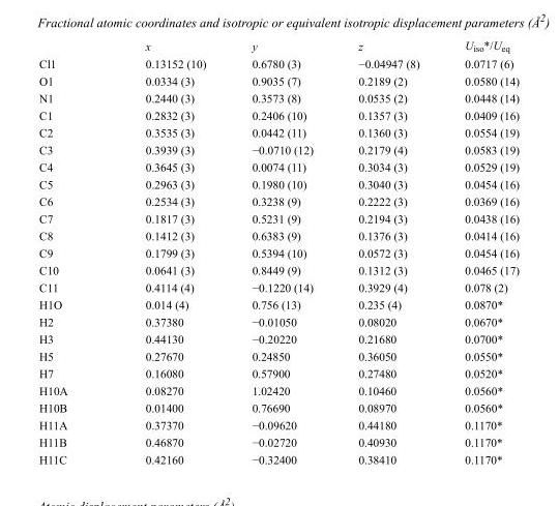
<table><thead><tr><td></td><td>x</td><td>y</td><td>z</td><td>U<sub>iso</sub>*/U<sub>eq</sub></td></tr></thead><tbody><tr><td>Cl1</td><td>0.13152 (10)</td><td>0.6780 (3)</td><td>−0.04947 (8)</td><td>0.0717 (6)</td></tr><tr><td>O1</td><td>0.0334 (3)</td><td>0.9035 (7)</td><td>0.2189 (2)</td><td>0.0580 (14)</td></tr><tr><td>N1</td><td>0.2440 (3)</td><td>0.3573 (8)</td><td>0.0535 (2)</td><td>0.0448 (14)</td></tr><tr><td>C1</td><td>0.2832 (3)</td><td>0.2406 (10)</td><td>0.1357 (3)</td><td>0.0409 (16)</td></tr><tr><td>C2</td><td>0.3535 (3)</td><td>0.0442 (11)</td><td>0.1360 (3)</td><td>0.0554 (19)</td></tr><tr><td>C3</td><td>0.3939 (3)</td><td>−0.0710 (12)</td><td>0.2179 (4)</td><td>0.0583 (19)</td></tr><tr><td>C4</td><td>0.3645 (3)</td><td>0.0074 (11)</td><td>0.3034 (3)</td><td>0.0529 (19)</td></tr><tr><td>C5</td><td>0.2963 (3)</td><td>0.1980 (10)</td><td>0.3040 (3)</td><td>0.0454 (16)</td></tr><tr><td>C6</td><td>0.2534 (3)</td><td>0.3238 (9)</td><td>0.2222 (3)</td><td>0.0369 (16)</td></tr><tr><td>C7</td><td>0.1817 (3)</td><td>0.5231 (9)</td><td>0.2194 (3)</td><td>0.0438 (16)</td></tr><tr><td>C8</td><td>0.1412 (3)</td><td>0.6383 (9)</td><td>0.1376 (3)</td><td>0.0414 (16)</td></tr><tr><td>C9</td><td>0.1799 (3)</td><td>0.5394 (10)</td><td>0.0572 (3)</td><td>0.0454 (16)</td></tr><tr><td>C10</td><td>0.0641 (3)</td><td>0.8449 (9)</td><td>0.1312 (3)</td><td>0.0465 (17)</td></tr><tr><td>C11</td><td>0.4114 (4)</td><td>−0.1220 (14)</td><td>0.3929 (4)</td><td>0.078 (2)</td></tr><tr><td>H1O</td><td>0.014 (4)</td><td>0.756 (13)</td><td>0.235 (4)</td><td>0.0870*</td></tr><tr><td>H2</td><td>0.37380</td><td>−0.01050</td><td>0.08020</td><td>0.0670*</td></tr><tr><td>H3</td><td>0.44130</td><td>−0.20220</td><td>0.21680</td><td>0.0700*</td></tr><tr><td>H5</td><td>0.27670</td><td>0.24850</td><td>0.36050</td><td>0.0550*</td></tr><tr><td>H7</td><td>0.16080</td><td>0.57900</td><td>0.27480</td><td>0.0520*</td></tr><tr><td>H10A</td><td>0.08270</td><td>1.02420</td><td>0.10460</td><td>0.0560*</td></tr><tr><td>H10B</td><td>0.01400</td><td>0.76690</td><td>0.08970</td><td>0.0560*</td></tr><tr><td>H11A</td><td>0.37370</td><td>−0.09620</td><td>0.44180</td><td>0.1170*</td></tr><tr><td>H11B</td><td>0.46870</td><td>−0.02720</td><td>0.40930</td><td>0.1170*</td></tr><tr><td>H11C</td><td>0.42160</td><td>−0.32400</td><td>0.38410</td><td>0.1170*</td></tr></tbody></table>